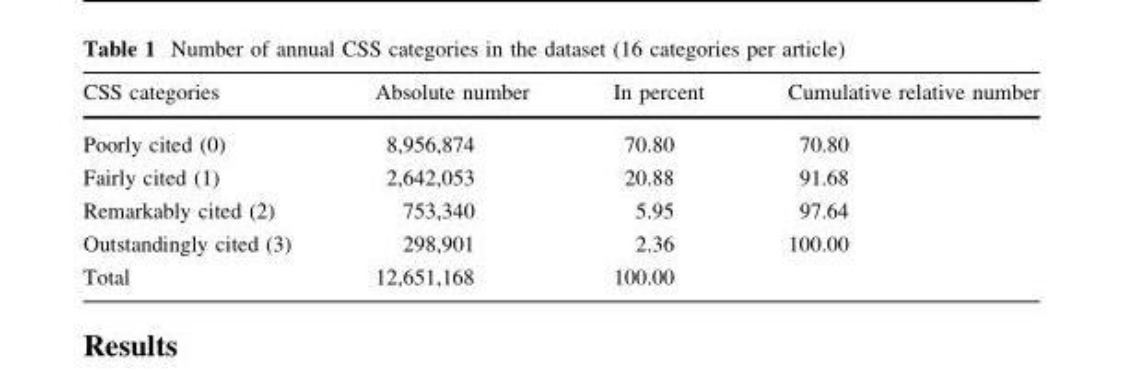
<table><thead><tr><td>CSS categories</td><td>Absolute number</td><td>In percent</td><td>Cumulative relative number</td></tr></thead><tbody><tr><td>Poorly cited (0)</td><td>8,956,874</td><td>70.80</td><td>70.80</td></tr><tr><td>Fairly cited (1)</td><td>2,642,053</td><td>20.88</td><td>91.68</td></tr><tr><td>Remarkably cited (2)</td><td>753,340</td><td>5.95</td><td>97.64</td></tr><tr><td>Outstandingly cited (3)</td><td>298,901</td><td>2.36</td><td>100.00</td></tr><tr><td>Total</td><td>12,651,168</td><td>100.00</td><td></td></tr></tbody></table>